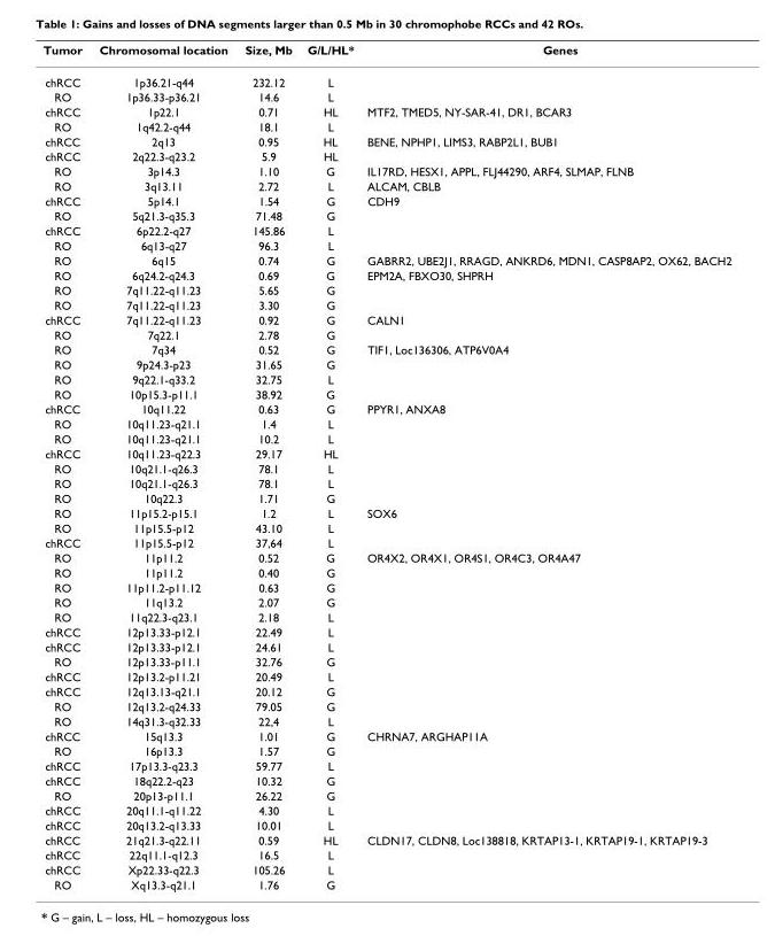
<table><thead><tr><td>Tumor</td><td>Chromosomal location</td><td>Size, Mb</td><td>G/L/HL*</td><td>Genes</td></tr></thead><tbody><tr><td>chRCC</td><td>1p36.21-q44</td><td>232.12</td><td>L</td><td></td></tr><tr><td>RO</td><td>1p36.33-p36.21</td><td>14.6</td><td>L</td><td></td></tr><tr><td>chRCC</td><td>1p22.1</td><td>0.71</td><td>HL</td><td>MTF2, TMED5, NY-SAR-41, DR1, BCAR3</td></tr><tr><td>RO</td><td>1q42.2-q44</td><td>18.1</td><td>L</td><td></td></tr><tr><td>chRCC</td><td>2q13</td><td>0.95</td><td>HL</td><td>BENE, NPHP1, LIMS3, RABP2L1, BUB1</td></tr><tr><td>chRCC</td><td>2q22.3-q23.2</td><td>5.9</td><td>HL</td><td></td></tr><tr><td>RO</td><td>3p14.3</td><td>1.10</td><td>G</td><td>IL17RD, HESX1, APPL, FLJ44290, ARF4, SLMAP, FLNB</td></tr><tr><td>RO</td><td>3q13.11</td><td>2.72</td><td>L</td><td>ALCAM, CBLB</td></tr><tr><td>chRCC</td><td>5p14.1</td><td>1.54</td><td>G</td><td>CDH9</td></tr><tr><td>RO</td><td>5q21.3-q35.3</td><td>71.48</td><td>G</td><td></td></tr><tr><td>chRCC</td><td>6p22.2-q27</td><td>145.86</td><td>L</td><td></td></tr><tr><td>RO</td><td>6q13-q27</td><td>96.3</td><td>L</td><td></td></tr><tr><td>RO</td><td>6q15</td><td>0.74</td><td>G</td><td>GABRR2, UBE2J1, RRAGD, ANKRD6, MDN1, CASP8AP2, OX62, BACH2</td></tr><tr><td>RO</td><td>6q24.2-q24.3</td><td>0.69</td><td>G</td><td>EPM2A, FBXO30, SHPRH</td></tr><tr><td>RO</td><td>7q11.22-q11.23</td><td>5.65</td><td>G</td><td></td></tr><tr><td>RO</td><td>7q11.22-q11.23</td><td>3.30</td><td>G</td><td></td></tr><tr><td>chRCC</td><td>7q11.22-q11.23</td><td>0.92</td><td>G</td><td>CALN1</td></tr><tr><td>RO</td><td>7q22.1</td><td>2.78</td><td>G</td><td></td></tr><tr><td>RO</td><td>7q34</td><td>0.52</td><td>G</td><td>TIF1, Loc136306, ATP6V0A4</td></tr><tr><td>RO</td><td>9p24.3-p23</td><td>31.65</td><td>G</td><td></td></tr><tr><td>RO</td><td>9q22.1-q33.2</td><td>32.75</td><td>L</td><td></td></tr><tr><td>RO</td><td>10p15.3-p11.1</td><td>38.92</td><td>G</td><td></td></tr><tr><td>chRCC</td><td>10q11.22</td><td>0.63</td><td>G</td><td>PPYR1, ANXA8</td></tr><tr><td>RO</td><td>10q11.23-q21.1</td><td>1.4</td><td>L</td><td></td></tr><tr><td>RO</td><td>10q11.23-q21.1</td><td>10.2</td><td>L</td><td></td></tr><tr><td>chRCC</td><td>10q11.23-q22.3</td><td>29.17</td><td>HL</td><td></td></tr><tr><td>RO</td><td>10q21.1-q26.3</td><td>78.1</td><td>L</td><td></td></tr><tr><td>RO</td><td>10q21.1-q26.3</td><td>78.1</td><td>L</td><td></td></tr><tr><td>RO</td><td>10q22.3</td><td>1.71</td><td>G</td><td></td></tr><tr><td>RO</td><td>11p15.2-p15.1</td><td>1.2</td><td>L</td><td>SOX6</td></tr><tr><td>RO</td><td>11p15.5-p12</td><td>43.10</td><td>L</td><td></td></tr><tr><td>chRCC</td><td>11p15.5-p12</td><td>37,64</td><td>L</td><td></td></tr><tr><td>RO</td><td>11p11.2</td><td>0.52</td><td>G</td><td>OR4X2, OR4X1, OR4S1, OR4C3, OR4A47</td></tr><tr><td>RO</td><td>11p11.2</td><td>0.40</td><td>G</td><td></td></tr><tr><td>RO</td><td>11p11.2-p11.12</td><td>0.63</td><td>G</td><td></td></tr><tr><td>RO</td><td>11q13.2</td><td>2.07</td><td>G</td><td></td></tr><tr><td>RO</td><td>11q22.3-q23.1</td><td>2.18</td><td>L</td><td></td></tr><tr><td>chRCC</td><td>12p13.33-p12.1</td><td>22.49</td><td>L</td><td></td></tr><tr><td>chRCC</td><td>12p13.33-p12.1</td><td>24.61</td><td>L</td><td></td></tr><tr><td>RO</td><td>12p13.33-p11.1</td><td>32.76</td><td>G</td><td></td></tr><tr><td>chRCC</td><td>12p13.2-p11.21</td><td>20.49</td><td>L</td><td></td></tr><tr><td>chRCC</td><td>12q13.13-q21.1</td><td>20.12</td><td>G</td><td></td></tr><tr><td>RO</td><td>12q13.2-q24.33</td><td>79.05</td><td>G</td><td></td></tr><tr><td>RO</td><td>14q31.3-q32.33</td><td>22,4</td><td>L</td><td></td></tr><tr><td>chRCC</td><td>15q13.3</td><td>1.01</td><td>G</td><td>CHRNA7, ARGHAP11A</td></tr><tr><td>RO</td><td>16p13.3</td><td>1.57</td><td>G</td><td></td></tr><tr><td>chRCC</td><td>17p13.3-q23.3</td><td>59.77</td><td>L</td><td></td></tr><tr><td>chRCC</td><td>18q22.2-q23</td><td>10.32</td><td>G</td><td></td></tr><tr><td>RO</td><td>20p13-p11.1</td><td>26.22</td><td>G</td><td></td></tr><tr><td>chRCC</td><td>20q11.1-q11.22</td><td>4.30</td><td>L</td><td></td></tr><tr><td>chRCC</td><td>20q13.2-q13.33</td><td>10.01</td><td>L</td><td></td></tr><tr><td>chRCC</td><td>21q21.3-q22.11</td><td>0.59</td><td>HL</td><td>CLDN17, CLDN8, Loc138818, KRTAP13-1, KRTAP19-1, KRTAP19-3</td></tr><tr><td>chRCC</td><td>22q11.1-q12.3</td><td>16.5</td><td>L</td><td></td></tr><tr><td>chRCC</td><td>Xp22.33-q22.3</td><td>105.26</td><td>L</td><td></td></tr><tr><td>RO</td><td>Xq13.3-q21.1</td><td>1.76</td><td>G</td><td></td></tr></tbody></table>